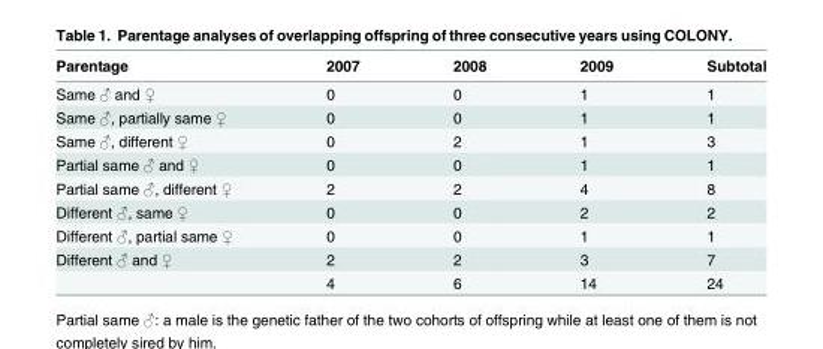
<table><thead><tr><td>Parentage</td><td>2007</td><td>2008</td><td>2009</td><td>Subtotal</td></tr></thead><tbody><tr><td>Same ♂ and ♀</td><td>0</td><td>0</td><td>1</td><td>1</td></tr><tr><td>Same ♂, partially same ♀</td><td>0</td><td>0</td><td>1</td><td>1</td></tr><tr><td>Same ♂, different ♀</td><td>0</td><td>2</td><td>1</td><td>3</td></tr><tr><td>Partial same ♂ and ♀</td><td>0</td><td>0</td><td>1</td><td>1</td></tr><tr><td>Partial same ♂, different ♀</td><td>2</td><td>2</td><td>4</td><td>8</td></tr><tr><td>Different ♂, same ♀</td><td>0</td><td>0</td><td>2</td><td>2</td></tr><tr><td>Different ♂, partial same ♀</td><td>0</td><td>0</td><td>1</td><td>1</td></tr><tr><td rowspan="2">Different ♂ and ♀</td><td>2</td><td>2</td><td>3</td><td>7</td></tr><tr><td>4</td><td>6</td><td>14</td><td>24</td></tr></tbody></table>